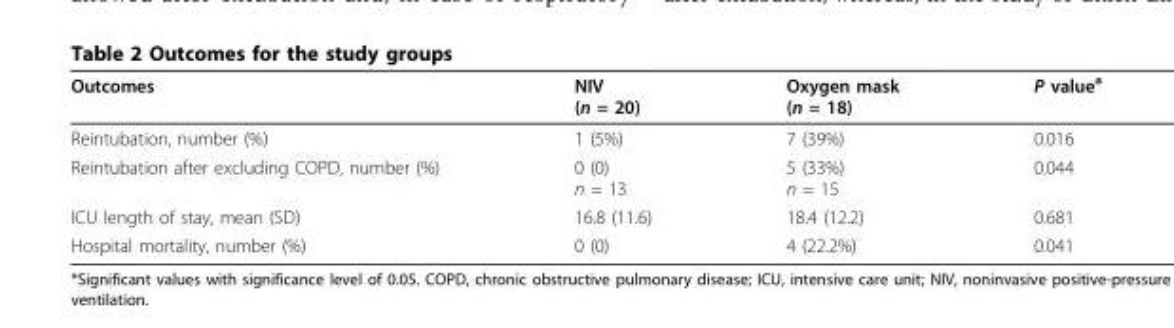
<table><thead><tr><td>Outcomes</td><td>NIV (n = 20)</td><td>Oxygen mask (n = 18)</td><td>P value<sup>a</sup></td></tr></thead><tbody><tr><td>Reintubation, number (%)</td><td>1 (5%)</td><td>7 (39%)</td><td>0.016</td></tr><tr><td>Reintubation after excluding COPD, number (%)</td><td>0 (0) n = 13</td><td>5 (33%) n = 15</td><td>0.044</td></tr><tr><td>ICU length of stay, mean (SD)</td><td>16.8 (11.6)</td><td>18.4 (12.2)</td><td>0.681</td></tr><tr><td>Hospital mortality, number (%)</td><td>0 (0)</td><td>4 (22.2%)</td><td>0.041</td></tr></tbody></table>